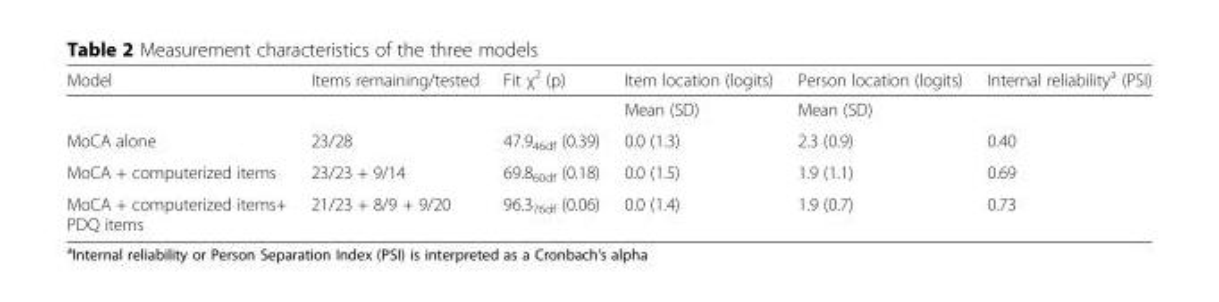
<table><thead><tr><td>Model</td><td>Items remaining/tested</td><td>Fit χ<sup>2</sup> (p)</td><td>Item location (logits)</td><td>Person location (logits)</td><td>Internal reliability<sup>a</sup> (PSI)</td></tr></thead><tbody><tr><td></td><td></td><td></td><td>Mean (SD)</td><td>Mean (SD)</td><td></td></tr><tr><td>MoCA alone</td><td>23/28</td><td>47.9<sub>46df</sub> (0.39)</td><td>0.0 (1.3)</td><td>2.3 (0.9)</td><td>0.40</td></tr><tr><td>MoCA + computerized items</td><td>23/23 + 9/14</td><td>69.8<sub>60df</sub> (0.18)</td><td>0.0 (1.5)</td><td>1.9 (1.1)</td><td>0.69</td></tr><tr><td>MoCA + computerized items+ PDQ items</td><td>21/23 + 8/9 + 9/20</td><td>96.3<sub>76df</sub> (0.06)</td><td>0.0 (1.4)</td><td>1.9 (0.7)</td><td>0.73</td></tr></tbody></table>